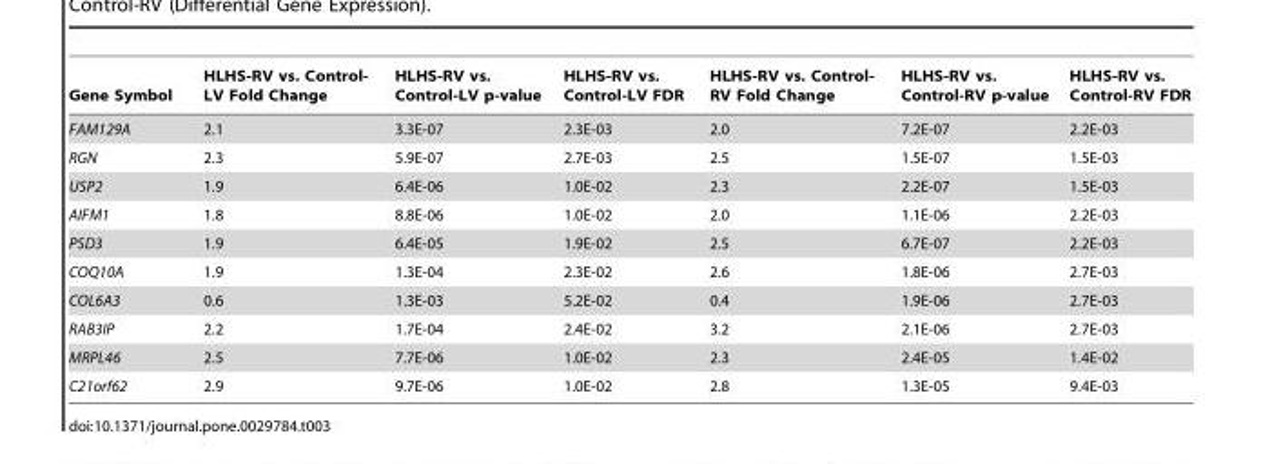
<table><thead><tr><td>Gene Symbol</td><td>HLHS-RV vs. Control- LV Fold Change</td><td>HLHS-RV vs. Control-LV p-value</td><td>HLHS-RV vs. Control-LV FDR</td><td>HLHS-RV vs. Control- RV Fold Change</td><td>HLHS-RV vs. Control-RV p-value</td><td>HLHS-RV vs. Control-RV FDR</td></tr></thead><tbody><tr><td>FAM129A</td><td>2.1</td><td>3.3E-07</td><td>2.3E-03</td><td>2.0</td><td>7.2E-07</td><td>2.2E-03</td></tr><tr><td>RGN</td><td>2.3</td><td>5.9E-07</td><td>2.7E-03</td><td>2.5</td><td>1.5E-07</td><td>1.5E-03</td></tr><tr><td>USP2</td><td>1.9</td><td>6.4E-06</td><td>1.0E-02</td><td>2.3</td><td>2.2E-07</td><td>1.5E-03</td></tr><tr><td>AIFM1</td><td>1.8</td><td>8.8E-06</td><td>1.0E-02</td><td>2.0</td><td>1.1E-06</td><td>2.2E-03</td></tr><tr><td>PSD3</td><td>1.9</td><td>6.4E-05</td><td>1.9E-02</td><td>2.5</td><td>6.7E-07</td><td>2.2E-03</td></tr><tr><td>COQ10A</td><td>1.9</td><td>1.3E-04</td><td>2.3E-02</td><td>2.6</td><td>1.8E-06</td><td>2.7E-03</td></tr><tr><td>COL6A3</td><td>0.6</td><td>1.3E-03</td><td>5.2E-02</td><td>0.4</td><td>1.9E-06</td><td>2.7E-03</td></tr><tr><td>RAB3IP</td><td>2.2</td><td>1.7E-04</td><td>2.4E-02</td><td>3.2</td><td>2.1E-06</td><td>2.7E-03</td></tr><tr><td>MRPL46</td><td>2.5</td><td>7.7E-06</td><td>1.0E-02</td><td>2.3</td><td>2.4E-05</td><td>1.4E-02</td></tr><tr><td>C21orf62</td><td>2.9</td><td>9.7E-06</td><td>1.0E-02</td><td>2.8</td><td>1.3E-05</td><td>9.4E-03</td></tr></tbody></table>